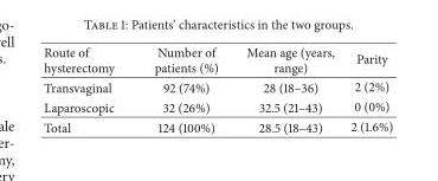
<table><thead><tr><td>Route of hysterectomy</td><td>Number of patients (%)</td><td>Mean age (years, range)</td><td>Parity</td></tr></thead><tbody><tr><td>Transvaginal</td><td>92 (74%)</td><td>28 (18–36)</td><td>2 (2%)</td></tr><tr><td>Laparoscopic</td><td>32 (26%)</td><td>32.5 (21–43)</td><td>0 (0%)</td></tr><tr><td>Total</td><td>124 (100%)</td><td>28.5 (18–43)</td><td>2 (1.6%)</td></tr></tbody></table>